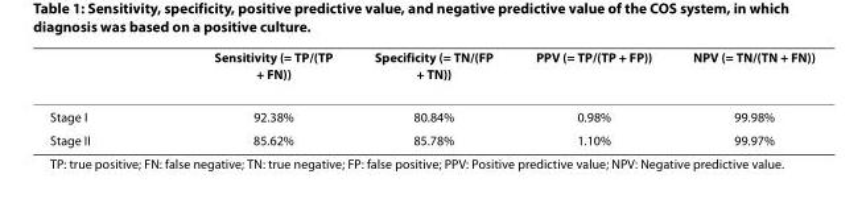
<table><thead><tr><td></td><td>Sensitivity (= TP/(TP + FN))</td><td>Specificity (= TN/(FP + TN))</td><td>PPV (= TP/(TP + FP))</td><td>NPV (= TN/(TN + FN))</td></tr></thead><tbody><tr><td>Stage I</td><td>92.38%</td><td>80.84%</td><td>0.98%</td><td>99.98%</td></tr><tr><td>Stage II</td><td>85.62%</td><td>85.78%</td><td>1.10%</td><td>99.97%</td></tr></tbody></table>